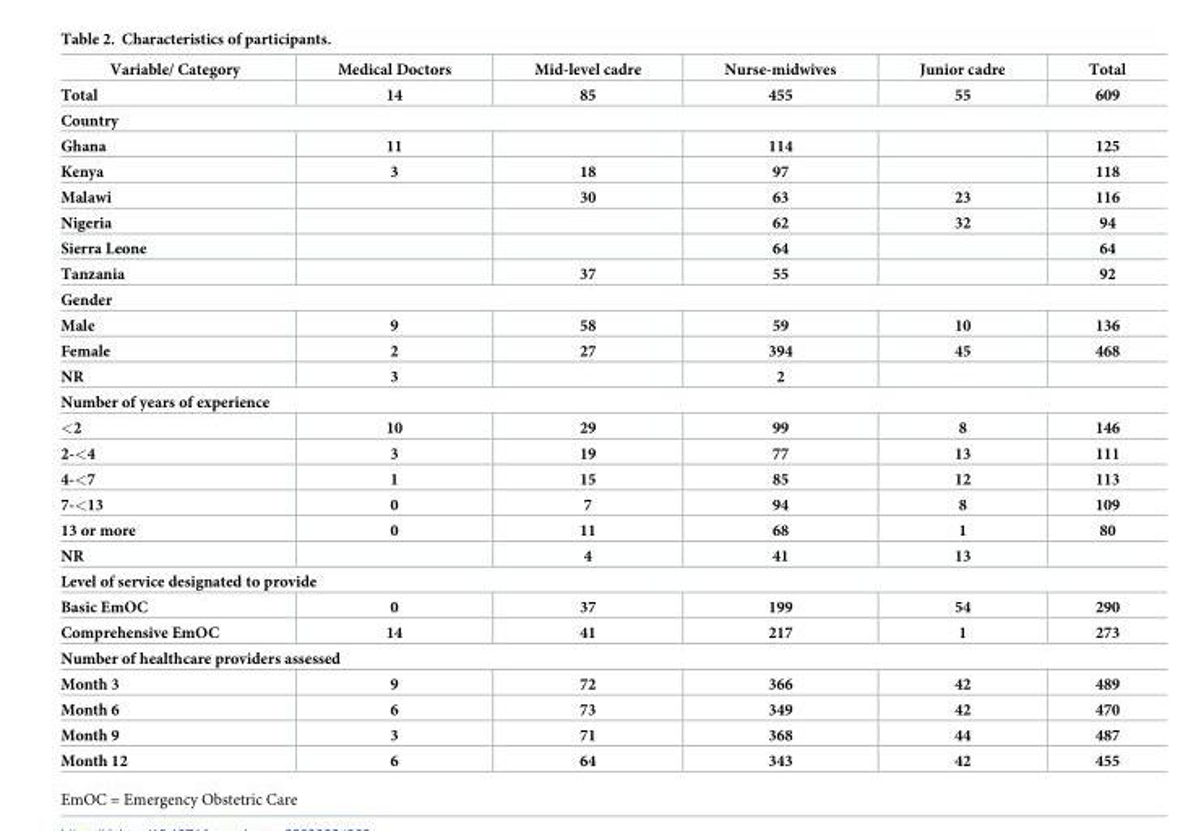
<table><thead><tr><td rowspan="2">Variable/ Category Total</td><td rowspan="2">Medical Doctors 14</td><td rowspan="2">Mid-level cadre 85</td><td rowspan="2">Nurse-midwives 455</td><td rowspan="2">Junior cadre 55</td><td rowspan="2">Total 609</td></tr><tr></tr></thead><tbody><tr><td colspan="6">Country</td></tr><tr><td>Ghana</td><td>11</td><td></td><td>114</td><td></td><td>125</td></tr><tr><td>Kenya</td><td>3</td><td>18</td><td>97</td><td></td><td>118</td></tr><tr><td>Malawi</td><td></td><td>30</td><td>63</td><td>23</td><td>116</td></tr><tr><td>Nigeria</td><td></td><td></td><td>62</td><td>32</td><td>94</td></tr><tr><td>Sierra Leone</td><td></td><td></td><td>64</td><td></td><td>64</td></tr><tr><td>Tanzania</td><td></td><td>37</td><td>55</td><td></td><td>92</td></tr><tr><td colspan="6">Gender</td></tr><tr><td>Male</td><td>9</td><td>58</td><td>59</td><td>10</td><td>136</td></tr><tr><td>Female</td><td>2</td><td>27</td><td>394</td><td>45</td><td>468</td></tr><tr><td>NR</td><td>3</td><td></td><td>2</td><td></td><td></td></tr><tr><td colspan="6">Number of years of experience</td></tr><tr><td>&lt;2</td><td>10</td><td>29</td><td>99</td><td>8</td><td>146</td></tr><tr><td>2-&lt;4</td><td>3</td><td>19</td><td>77</td><td>13</td><td>111</td></tr><tr><td>4-&lt;7</td><td>1</td><td>15</td><td>85</td><td>12</td><td>113</td></tr><tr><td>7-&lt;13</td><td>0</td><td>7</td><td>94</td><td>8</td><td>109</td></tr><tr><td>13 or more</td><td>0</td><td>11</td><td>68</td><td>1</td><td>80</td></tr><tr><td>NR</td><td></td><td>4</td><td>41</td><td>13</td><td></td></tr><tr><td colspan="6">Level of service designated to provide</td></tr><tr><td>Basic EmOC</td><td>0</td><td>37</td><td>199</td><td>54</td><td>290</td></tr><tr><td>Comprehensive EmOC</td><td>14</td><td>41</td><td>217</td><td>1</td><td>273</td></tr><tr><td colspan="6">Number of healthcare providers assessed</td></tr><tr><td>Month 3</td><td>9</td><td>72</td><td>366</td><td>42</td><td>489</td></tr><tr><td>Month 6</td><td>6</td><td>73</td><td>349</td><td>42</td><td>470</td></tr><tr><td>Month 9</td><td>3</td><td>71</td><td>368</td><td>44</td><td>487</td></tr><tr><td>Month 12</td><td>6</td><td>64</td><td>343</td><td>42</td><td>455</td></tr></tbody></table>